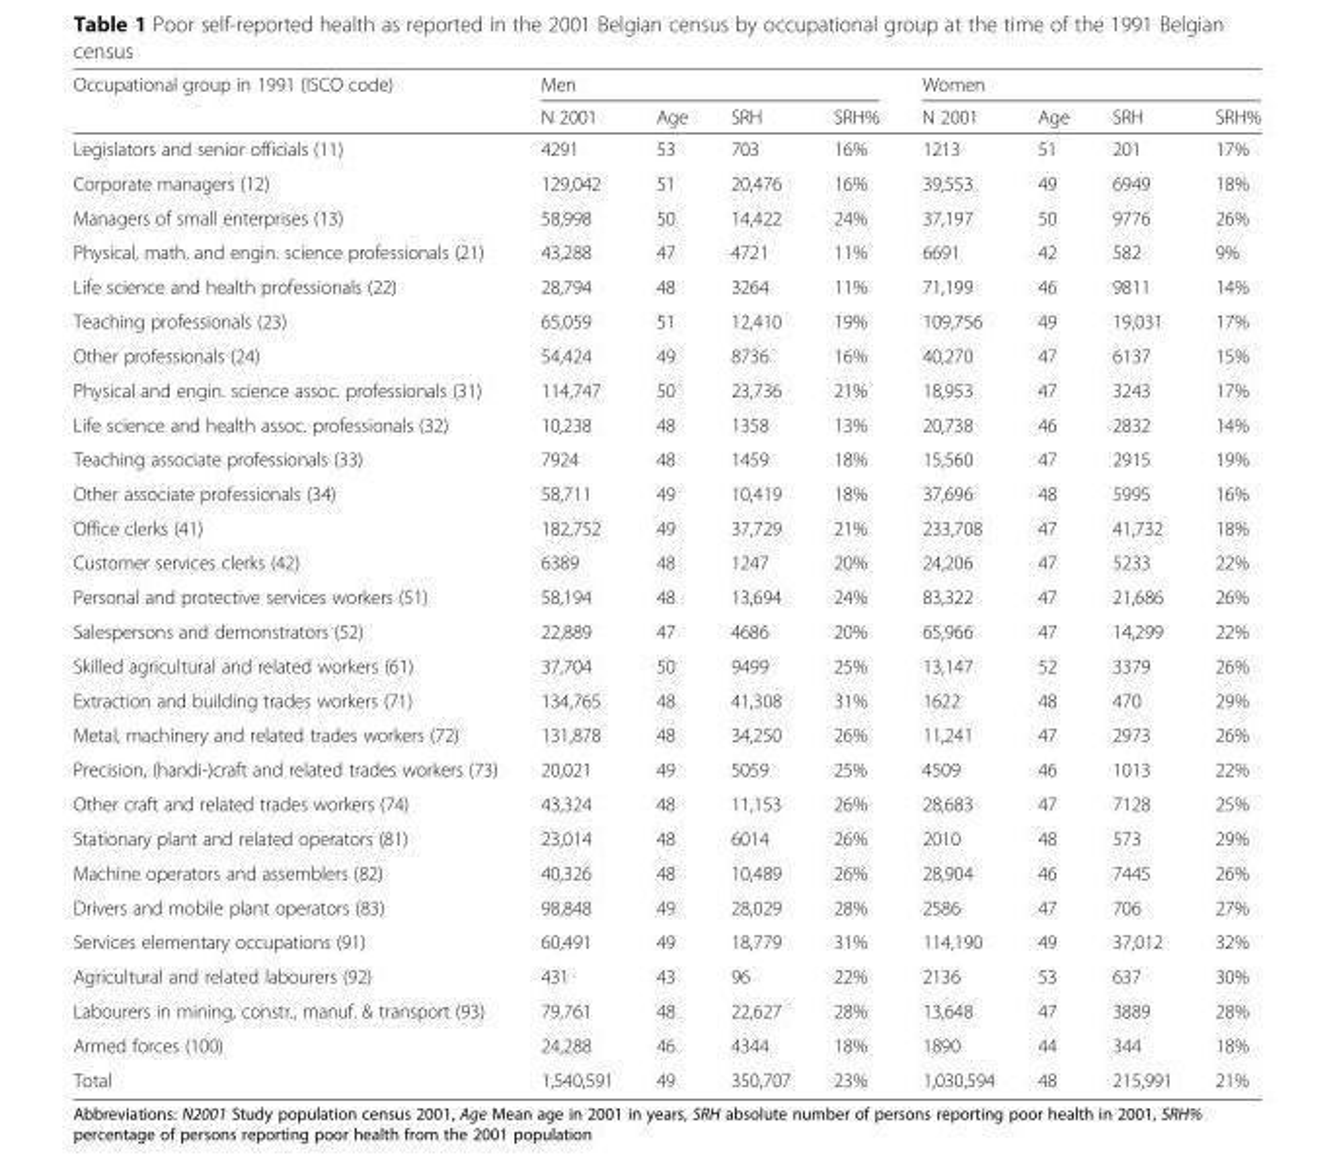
<table><thead><tr><td rowspan="2">Occupational group in 1991 (ISCO code)</td><td colspan="4">Men</td><td colspan="4">Women</td></tr><tr><td>N 2001</td><td>Age</td><td>SRH</td><td>SRH%</td><td>N 2001</td><td>Age</td><td>SRH</td><td>SRH%</td></tr></thead><tbody><tr><td>Legislators and senior officials (11)</td><td>4291</td><td>53</td><td>703</td><td>16%</td><td>1213</td><td>51</td><td>201</td><td>17%</td></tr><tr><td>Corporate managers (12)</td><td>129,042</td><td>51</td><td>20,476</td><td>16%</td><td>39,553</td><td>49</td><td>6949</td><td>18%</td></tr><tr><td>Managers of small enterprises (13)</td><td>58,998</td><td>50</td><td>14,422</td><td>24%</td><td>37,197</td><td>50</td><td>9776</td><td>26%</td></tr><tr><td>Physical, math. and engin. science professionals (21)</td><td>43,288</td><td>47</td><td>4721</td><td>11%</td><td>6691</td><td>42</td><td>582</td><td>9%</td></tr><tr><td>Life science and health professionals (22)</td><td>28,794</td><td>48</td><td>3264</td><td>11%</td><td>71,199</td><td>46</td><td>9811</td><td>14%</td></tr><tr><td>Teaching professionals (23)</td><td>65,059</td><td>51</td><td>12,410</td><td>19%</td><td>109,756</td><td>49</td><td>19,031</td><td>17%</td></tr><tr><td>Other professionals (24)</td><td>54,424</td><td>49</td><td>8736</td><td>16%</td><td>40,270</td><td>47</td><td>6137</td><td>15%</td></tr><tr><td>Physical and engin. science assoc. professionals (31)</td><td>114,747</td><td>50</td><td>23,736</td><td>21%</td><td>18,953</td><td>47</td><td>3243</td><td>17%</td></tr><tr><td>Life science and health assoc. professionals (32)</td><td>10,238</td><td>48</td><td>1358</td><td>13%</td><td>20,738</td><td>46</td><td>2832</td><td>14%</td></tr><tr><td>Teaching associate professionals (33)</td><td>7924</td><td>48</td><td>1459</td><td>18%</td><td>15,560</td><td>47</td><td>2915</td><td>19%</td></tr><tr><td>Other associate professionals (34)</td><td>58,711</td><td>49</td><td>10,419</td><td>18%</td><td>37,696</td><td>48</td><td>5995</td><td>16%</td></tr><tr><td>Office clerks (41)</td><td>182,752</td><td>49</td><td>37,729</td><td>21%</td><td>233,708</td><td>47</td><td>41,732</td><td>18%</td></tr><tr><td>Customer services clerks (42)</td><td>6389</td><td>48</td><td>1247</td><td>20%</td><td>24,206</td><td>47</td><td>5233</td><td>22%</td></tr><tr><td>Personal and protective services workers (51)</td><td>58,194</td><td>48</td><td>13,694</td><td>24%</td><td>83,322</td><td>47</td><td>21,686</td><td>26%</td></tr><tr><td>Salespersons and demonstrators (52)</td><td>22,889</td><td>47</td><td>4686</td><td>20%</td><td>65,966</td><td>47</td><td>14,299</td><td>22%</td></tr><tr><td>Skilled agricultural and related workers (61)</td><td>37,704</td><td>50</td><td>9499</td><td>25%</td><td>13,147</td><td>52</td><td>3379</td><td>26%</td></tr><tr><td>Extraction and building trades workers (71)</td><td>134,765</td><td>48</td><td>41,308</td><td>31%</td><td>1622</td><td>48</td><td>470</td><td>29%</td></tr><tr><td>Metal, machinery and related trades workers (72)</td><td>131,878</td><td>48</td><td>34,250</td><td>26%</td><td>11,241</td><td>47</td><td>2973</td><td>26%</td></tr><tr><td>Precision, (handi-)craft and related trades workers (73)</td><td>20,021</td><td>49</td><td>5059</td><td>25%</td><td>4509</td><td>46</td><td>1013</td><td>22%</td></tr><tr><td>Other craft and related trades workers (74)</td><td>43,324</td><td>48</td><td>11,153</td><td>26%</td><td>28,683</td><td>47</td><td>7128</td><td>25%</td></tr><tr><td>Stationary plant and related operators (81)</td><td>23,014</td><td>48</td><td>6014</td><td>26%</td><td>2010</td><td>48</td><td>573</td><td>29%</td></tr><tr><td>Machine operators and assemblers (82)</td><td>40,326</td><td>48</td><td>10,489</td><td>26%</td><td>28,904</td><td>46</td><td>7445</td><td>26%</td></tr><tr><td>Drivers and mobile plant operators (83)</td><td>98,848</td><td>49</td><td>28,029</td><td>28%</td><td>2586</td><td>47</td><td>706</td><td>27%</td></tr><tr><td>Services elementary occupations (91)</td><td>60,491</td><td>49</td><td>18,779</td><td>31%</td><td>114,190</td><td>49</td><td>37,012</td><td>32%</td></tr><tr><td>Agricultural and related labourers (92)</td><td>431</td><td>43</td><td>96</td><td>22%</td><td>2136</td><td>53</td><td>637</td><td>30%</td></tr><tr><td>Labourers in mining, constr., manuf. &amp; transport (93)</td><td>79,761</td><td>48</td><td>22,627</td><td>28%</td><td>13,648</td><td>47</td><td>3889</td><td>28%</td></tr><tr><td>Armed forces (100)</td><td>24,288</td><td>46</td><td>4344</td><td>18%</td><td>1890</td><td>44</td><td>344</td><td>18%</td></tr><tr><td>Total</td><td>1,540,591</td><td>49</td><td>350,707</td><td>23%</td><td>1,030,594</td><td>48</td><td>215,991</td><td>21%</td></tr></tbody></table>